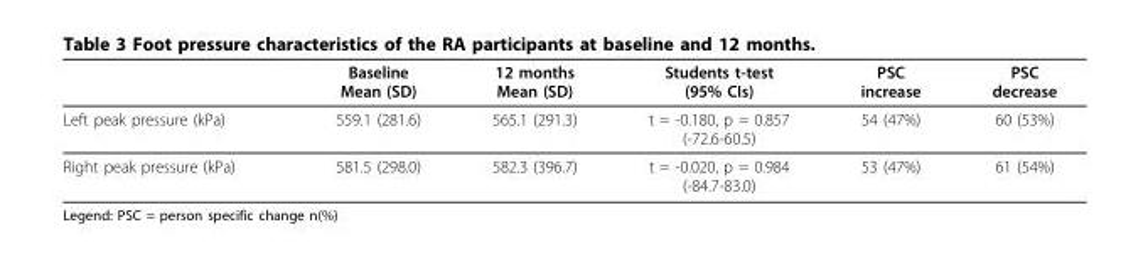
<table><thead><tr><td></td><td>Baseline Mean (SD)</td><td>12 months Mean (SD)</td><td>Students t-test (95% CIs)</td><td>PSC increase</td><td>PSC decrease</td></tr></thead><tbody><tr><td>Left peak pressure (kPa)</td><td>559.1 (281.6)</td><td>565.1 (291.3)</td><td>t = -0.180, p = 0.857 (-72.6-60.5)</td><td>54 (47%)</td><td>60 (53%)</td></tr><tr><td>Right peak pressure (kPa)</td><td>581.5 (298.0)</td><td>582.3 (396.7)</td><td>t = -0.020, p = 0.984 (-84.7-83.0)</td><td>53 (47%)</td><td>61 (54%)</td></tr></tbody></table>